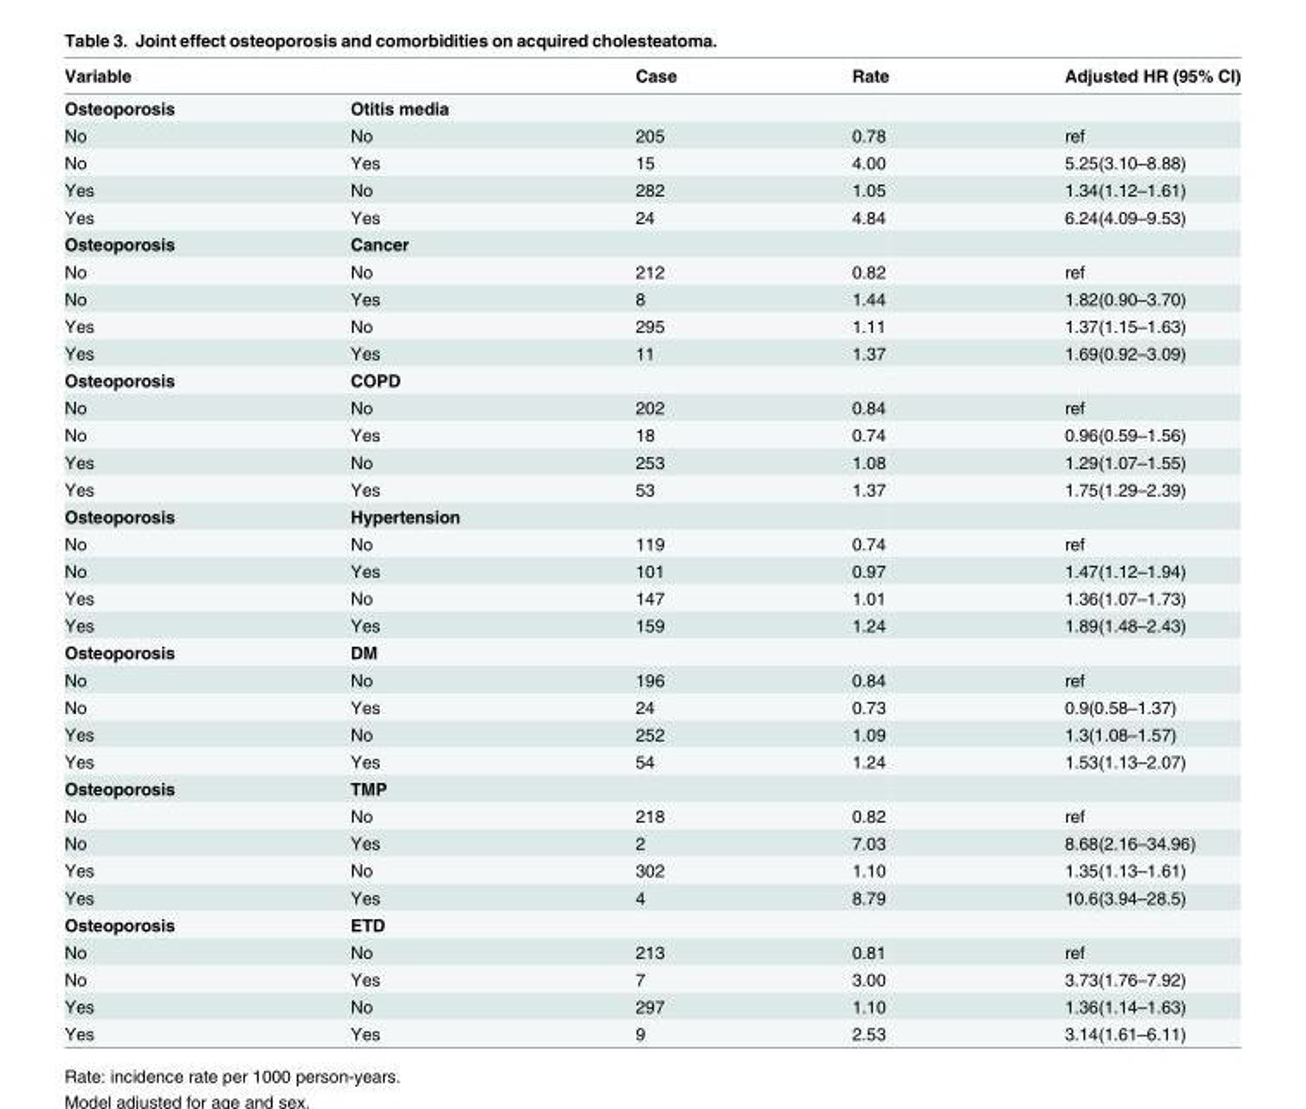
<table><thead><tr><td>Variable</td><td></td><td>Case</td><td>Rate</td><td>Adjusted HR (95% CI)</td></tr></thead><tbody><tr><td>Osteoporosis</td><td>Otitis media</td><td></td><td></td><td></td></tr><tr><td>No</td><td>No</td><td>205</td><td>0.78</td><td>ref</td></tr><tr><td>No</td><td>Yes</td><td>15</td><td>4.00</td><td>5.25(3.10–8.88)</td></tr><tr><td>Yes</td><td>No</td><td>282</td><td>1.05</td><td>1.34(1.12–1.61)</td></tr><tr><td>Yes</td><td>Yes</td><td>24</td><td>4.84</td><td>6.24(4.09–9.53)</td></tr><tr><td>Osteoporosis</td><td>Cancer</td><td></td><td></td><td></td></tr><tr><td>No</td><td>No</td><td>212</td><td>0.82</td><td>ref</td></tr><tr><td>No</td><td>Yes</td><td>8</td><td>1.44</td><td>1.82(0.90–3.70)</td></tr><tr><td>Yes</td><td>No</td><td>295</td><td>1.11</td><td>1.37(1.15–1.63)</td></tr><tr><td>Yes</td><td>Yes</td><td>11</td><td>1.37</td><td>1.69(0.92–3.09)</td></tr><tr><td>Osteoporosis</td><td>COPD</td><td></td><td></td><td></td></tr><tr><td>No</td><td>No</td><td>202</td><td>0.84</td><td>ref</td></tr><tr><td>No</td><td>Yes</td><td>18</td><td>0.74</td><td>0.96(0.59–1.56)</td></tr><tr><td>Yes</td><td>No</td><td>253</td><td>1.08</td><td>1.29(1.07–1.55)</td></tr><tr><td>Yes</td><td>Yes</td><td>53</td><td>1.37</td><td>1.75(1.29–2.39)</td></tr><tr><td>Osteoporosis</td><td>Hypertension</td><td></td><td></td><td></td></tr><tr><td>No</td><td>No</td><td>119</td><td>0.74</td><td>ref</td></tr><tr><td>No</td><td>Yes</td><td>101</td><td>0.97</td><td>1.47(1.12–1.94)</td></tr><tr><td>Yes</td><td>No</td><td>147</td><td>1.01</td><td>1.36(1.07–1.73)</td></tr><tr><td>Yes</td><td>Yes</td><td>159</td><td>1.24</td><td>1.89(1.48–2.43)</td></tr><tr><td>Osteoporosis</td><td>DM</td><td></td><td></td><td></td></tr><tr><td>No</td><td>No</td><td>196</td><td>0.84</td><td>ref</td></tr><tr><td>No</td><td>Yes</td><td>24</td><td>0.73</td><td>0.9(0.58–1.37)</td></tr><tr><td>Yes</td><td>No</td><td>252</td><td>1.09</td><td>1.3(1.08–1.57)</td></tr><tr><td>Yes</td><td>Yes</td><td>54</td><td>1.24</td><td>1.53(1.13–2.07)</td></tr><tr><td>Osteoporosis</td><td>TMP</td><td></td><td></td><td></td></tr><tr><td>No</td><td>No</td><td>218</td><td>0.82</td><td>ref</td></tr><tr><td>No</td><td>Yes</td><td>2</td><td>7.03</td><td>8.68(2.16–34.96)</td></tr><tr><td>Yes</td><td>No</td><td>302</td><td>1.10</td><td>1.35(1.13–1.61)</td></tr><tr><td>Yes</td><td>Yes</td><td>4</td><td>8.79</td><td>10.6(3.94–28.5)</td></tr><tr><td>Osteoporosis</td><td>ETD</td><td></td><td></td><td></td></tr><tr><td>No</td><td>No</td><td>213</td><td>0.81</td><td>ref</td></tr><tr><td>No</td><td>Yes</td><td>7</td><td>3.00</td><td>3.73(1.76–7.92)</td></tr><tr><td>Yes</td><td>No</td><td>297</td><td>1.10</td><td>1.36(1.14–1.63)</td></tr><tr><td>Yes</td><td>Yes</td><td>9</td><td>2.53</td><td>3.14(1.61–6.11)</td></tr></tbody></table>